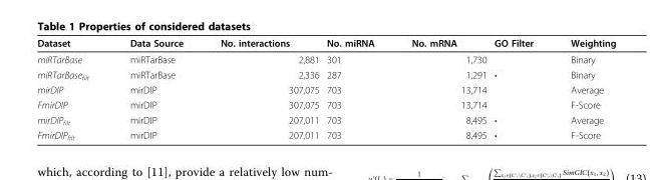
<table><thead><tr><td>Dataset</td><td>Data Source</td><td>No. interactions</td><td>No. miRNA</td><td>No. mRNA</td><td>GO Filter</td><td>Weighting</td></tr></thead><tbody><tr><td>miRTarBase</td><td>miRTarBase</td><td>2,881</td><td>301</td><td>1,730</td><td></td><td>Binary</td></tr><tr><td>miRTarBase<sub>filt</sub></td><td>miRTarBase</td><td>2,336</td><td>287</td><td>1,291</td><td>•</td><td>Binary</td></tr><tr><td>mirDIP</td><td>mirDIP</td><td>307,075</td><td>703</td><td>13,714</td><td></td><td>Average</td></tr><tr><td>FmirDIP</td><td>mirDIP</td><td>307,075</td><td>703</td><td>13,714</td><td></td><td>F-Score</td></tr><tr><td>mirDIP<sub>filt</sub></td><td>mirDIP</td><td>207,011</td><td>703</td><td>8,495</td><td>•</td><td>Average</td></tr><tr><td>FmirDIP<sub>filt</sub></td><td>mirDIP</td><td>207,011</td><td>703</td><td>8,495</td><td>•</td><td>F-Score</td></tr></tbody></table>